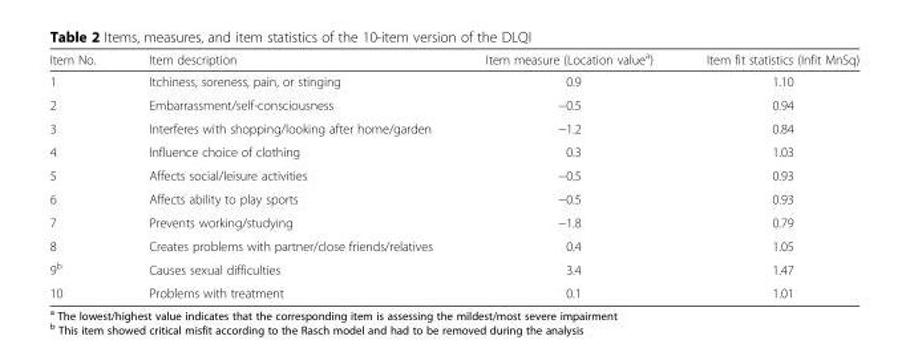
<table><thead><tr><td>Item No.</td><td>Item description</td><td>Item measure (Location value<sup>a</sup>)</td><td>Item fit statistics (Infit MnSq)</td></tr></thead><tbody><tr><td>1</td><td>Itchiness, soreness, pain, or stinging</td><td>0.9</td><td>1.10</td></tr><tr><td>2</td><td>Embarrassment/self-consciousness</td><td>−0.5</td><td>0.94</td></tr><tr><td>3</td><td>Interferes with shopping/looking after home/garden</td><td>−1.2</td><td>0.84</td></tr><tr><td>4</td><td>Influence choice of clothing</td><td>0.3</td><td>1.03</td></tr><tr><td>5</td><td>Affects social/leisure activities</td><td>−0.5</td><td>0.93</td></tr><tr><td>6</td><td>Affects ability to play sports</td><td>−0.5</td><td>0.93</td></tr><tr><td>7</td><td>Prevents working/studying</td><td>−1.8</td><td>0.79</td></tr><tr><td>8</td><td>Creates problems with partner/close friends/relatives</td><td>0.4</td><td>1.05</td></tr><tr><td>9<sup>b</sup></td><td>Causes sexual difficulties</td><td>3.4</td><td>1.47</td></tr><tr><td>10</td><td>Problems with treatment</td><td>0.1</td><td>1.01</td></tr></tbody></table>